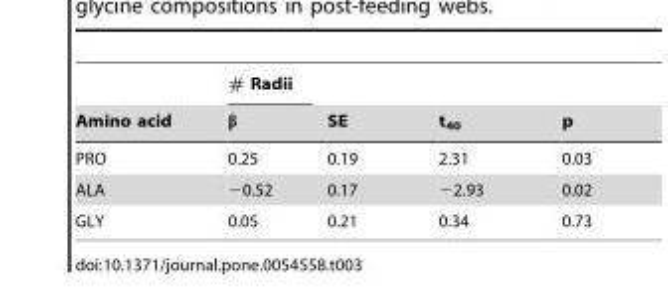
<table><thead><tr><td rowspan="2">Amino acid</td><td rowspan="2"># Radii β</td><td rowspan="2">SE</td><td rowspan="2">t<sub>40</sub></td><td rowspan="2">p</td></tr><tr></tr></thead><tbody><tr><td>PRO</td><td>0.25</td><td>0.19</td><td>2.31</td><td>0.03</td></tr><tr><td>ALA</td><td>−0.52</td><td>0.17</td><td>−2.93</td><td>0.02</td></tr><tr><td>GLY</td><td>0.05</td><td>0.21</td><td>0.34</td><td>0.73</td></tr></tbody></table>